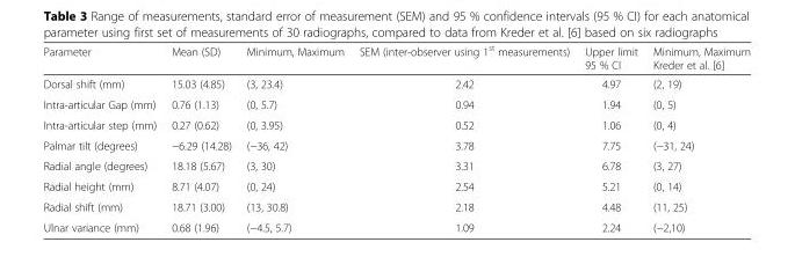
<table><thead><tr><td>Parameter</td><td>Mean (SD)</td><td>Minimum, Maximum</td><td>SEM (inter-observer using 1<sup>st</sup> measurements)</td><td>Upper limit 95 % CI</td><td>Minimum, Maximum Kreder et al. [6]</td></tr></thead><tbody><tr><td>Dorsal shift (mm)</td><td>15.03 (4.85)</td><td>(3, 23.4)</td><td>2.42</td><td>4.97</td><td>(2, 19)</td></tr><tr><td>Intra-articular Gap (mm)</td><td>0.76 (1.13)</td><td>(0, 5.7)</td><td>0.94</td><td>1.94</td><td>(0, 5)</td></tr><tr><td>Intra-articular step (mm)</td><td>0.27 (0.62)</td><td>(0, 3.95)</td><td>0.52</td><td>1.06</td><td>(0, 4)</td></tr><tr><td>Palmar tilt (degrees)</td><td>−6.29 (14.28)</td><td>(−36, 42)</td><td>3.78</td><td>7.75</td><td>(−31, 24)</td></tr><tr><td>Radial angle (degrees)</td><td>18.18 (5.67)</td><td>(3, 30)</td><td>3.31</td><td>6.78</td><td>(3, 27)</td></tr><tr><td>Radial height (mm)</td><td>8.71 (4.07)</td><td>(0, 24)</td><td>2.54</td><td>5.21</td><td>(0, 14)</td></tr><tr><td>Radial shift (mm)</td><td>18.71 (3.00)</td><td>(13, 30.8)</td><td>2.18</td><td>4.48</td><td>(11, 25)</td></tr><tr><td>Ulnar variance (mm)</td><td>0.68 (1.96)</td><td>(−4.5, 5.7)</td><td>1.09</td><td>2.24</td><td>(−2,10)</td></tr></tbody></table>